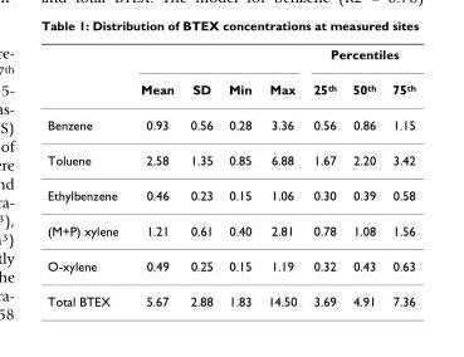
<table><thead><tr><td rowspan="2"></td><td rowspan="2">Mean</td><td rowspan="2">SD</td><td rowspan="2">Min</td><td rowspan="2">Max</td><td colspan="3">Percentiles</td></tr><tr><td>25<sup>th</sup></td><td>50<sup>th</sup></td><td>75<sup>th</sup></td></tr></thead><tbody><tr><td>Benzene</td><td>0.93</td><td>0.56</td><td>0.28</td><td>3.36</td><td>0.56</td><td>0.86</td><td>1.15</td></tr><tr><td>Toluene</td><td>2.58</td><td>1.35</td><td>0.85</td><td>6.88</td><td>1.67</td><td>2.20</td><td>3.42</td></tr><tr><td>Ethylbenzene</td><td>0.46</td><td>0.23</td><td>0.15</td><td>1.06</td><td>0.30</td><td>0.39</td><td>0.58</td></tr><tr><td>(M+P) xylene</td><td>1.21</td><td>0.61</td><td>0.40</td><td>2.81</td><td>0.78</td><td>1.08</td><td>1.56</td></tr><tr><td>O-xylene</td><td>0.49</td><td>0.25</td><td>0.15</td><td>1.19</td><td>0.32</td><td>0.43</td><td>0.63</td></tr><tr><td>Total BTEX</td><td>5.67</td><td>2.88</td><td>1.83</td><td>14.50</td><td>3.69</td><td>4.91</td><td>7.36</td></tr></tbody></table>